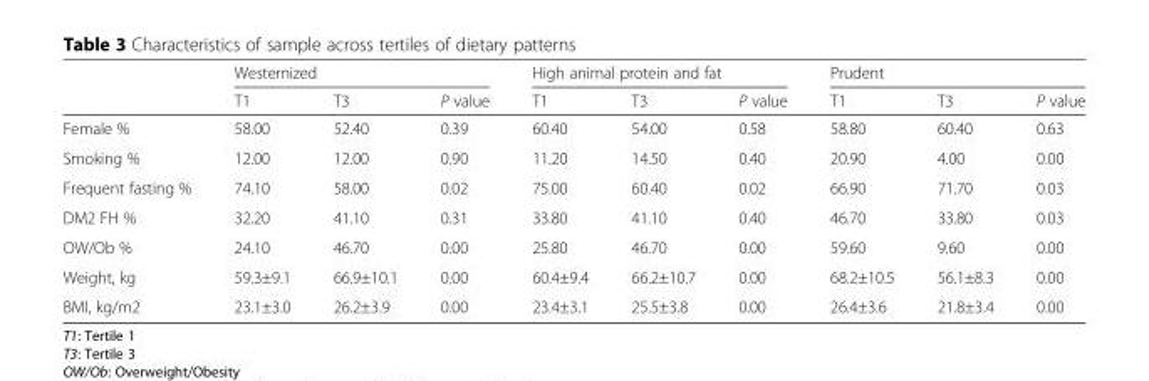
<table><thead><tr><td rowspan="2"></td><td colspan="3">Westernized</td><td colspan="3">High animal protein and fat</td><td colspan="3">Prudent</td></tr><tr><td>T1</td><td>T3</td><td>P value</td><td>T1</td><td>T3</td><td>P value</td><td>T1</td><td>T3</td><td>P value</td></tr></thead><tbody><tr><td>Female %</td><td>58.00</td><td>52.40</td><td>0.39</td><td>60.40</td><td>54.00</td><td>0.58</td><td>58.80</td><td>60.40</td><td>0.63</td></tr><tr><td>Smoking %</td><td>12.00</td><td>12.00</td><td>0.90</td><td>11.20</td><td>14.50</td><td>0.40</td><td>20.90</td><td>4.00</td><td>0.00</td></tr><tr><td>Frequent fasting %</td><td>74.10</td><td>58.00</td><td>0.02</td><td>75.00</td><td>60.40</td><td>0.02</td><td>66.90</td><td>71.70</td><td>0.03</td></tr><tr><td>DM2 FH %</td><td>32.20</td><td>41.10</td><td>0.31</td><td>33.80</td><td>41.10</td><td>0.40</td><td>46.70</td><td>33.80</td><td>0.03</td></tr><tr><td>OW/Ob %</td><td>24.10</td><td>46.70</td><td>0.00</td><td>25.80</td><td>46.70</td><td>0.00</td><td>59.60</td><td>9.60</td><td>0.00</td></tr><tr><td>Weight, kg</td><td>59.3±9.1</td><td>66.9±10.1</td><td>0.00</td><td>60.4±9.4</td><td>66.2±10.7</td><td>0.00</td><td>68.2±10.5</td><td>56.1±8.3</td><td>0.00</td></tr><tr><td>BMI, kg/m2</td><td>23.1±3.0</td><td>26.2±3.9</td><td>0.00</td><td>23.4±3.1</td><td>25.5±3.8</td><td>0.00</td><td>26.4±3.6</td><td>21.8±3.4</td><td>0.00</td></tr></tbody></table>